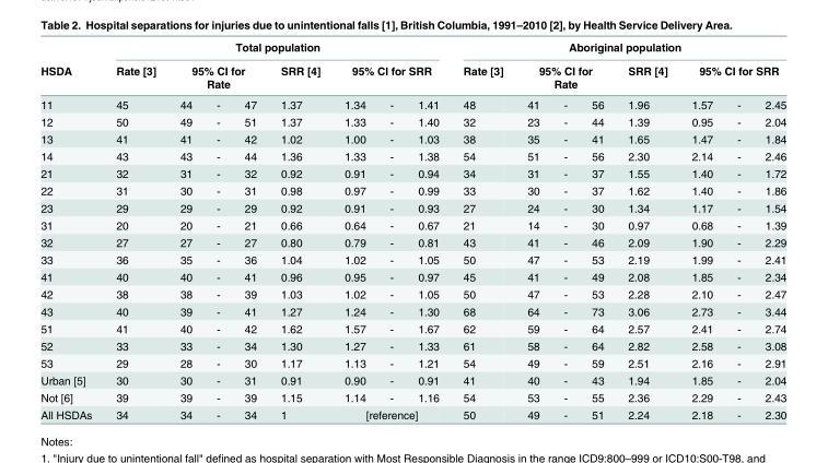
<table><thead><tr><td rowspan="3">HSDA 11</td><td colspan="8">Total population</td><td colspan="8">Aboriginal population</td></tr><tr><td rowspan="2">Rate [3] 45</td><td colspan="3">95% CI for Rate</td><td rowspan="2">SRR [4] 1.37</td><td colspan="3">95% CI for SRR</td><td rowspan="2">Rate [3] 48</td><td colspan="3">95% CI for Rate</td><td rowspan="2">SRR [4] 1.96</td><td colspan="3">95% CI for SRR</td></tr><tr><td>44</td><td>-</td><td>47</td><td>1.34</td><td>-</td><td>1.41</td><td>41</td><td>-</td><td>56</td><td>1.57</td><td>-</td><td>2.45</td></tr></thead><tbody><tr><td>12</td><td>50</td><td>49</td><td>-</td><td>51</td><td>1.37</td><td>1.33</td><td>-</td><td>1.40</td><td>32</td><td>23</td><td>-</td><td>44</td><td>1.39</td><td>0.95</td><td>-</td><td>2.04</td></tr><tr><td>13</td><td>41</td><td>41</td><td>-</td><td>42</td><td>1.02</td><td>1.00</td><td>-</td><td>1.03</td><td>38</td><td>35</td><td>-</td><td>41</td><td>1.65</td><td>1.47</td><td>-</td><td>1.84</td></tr><tr><td>14</td><td>43</td><td>43</td><td>-</td><td>44</td><td>1.36</td><td>1.33</td><td>-</td><td>1.38</td><td>54</td><td>51</td><td>-</td><td>56</td><td>2.30</td><td>2.14</td><td>-</td><td>2.46</td></tr><tr><td>21</td><td>32</td><td>31</td><td>-</td><td>32</td><td>0.92</td><td>0.91</td><td>-</td><td>0.94</td><td>34</td><td>31</td><td>-</td><td>37</td><td>1.55</td><td>1.40</td><td>-</td><td>1.72</td></tr><tr><td>22</td><td>31</td><td>30</td><td>-</td><td>31</td><td>0.98</td><td>0.97</td><td>-</td><td>0.99</td><td>33</td><td>30</td><td>-</td><td>37</td><td>1.62</td><td>1.40</td><td>-</td><td>1.86</td></tr><tr><td>23</td><td>29</td><td>29</td><td>-</td><td>29</td><td>0.92</td><td>0.91</td><td>-</td><td>0.93</td><td>27</td><td>24</td><td>-</td><td>30</td><td>1.34</td><td>1.17</td><td>-</td><td>1.54</td></tr><tr><td>31</td><td>20</td><td>20</td><td>-</td><td>21</td><td>0.66</td><td>0.64</td><td>-</td><td>0.67</td><td>21</td><td>14</td><td>-</td><td>30</td><td>0.97</td><td>0.68</td><td>-</td><td>1.39</td></tr><tr><td>32</td><td>27</td><td>27</td><td>-</td><td>27</td><td>0.80</td><td>0.79</td><td>-</td><td>0.81</td><td>43</td><td>41</td><td>-</td><td>46</td><td>2.09</td><td>1.90</td><td>-</td><td>2.29</td></tr><tr><td>33</td><td>36</td><td>35</td><td>-</td><td>36</td><td>1.04</td><td>1.02</td><td>-</td><td>1.05</td><td>50</td><td>47</td><td>-</td><td>53</td><td>2.19</td><td>1.99</td><td>-</td><td>2.41</td></tr><tr><td>41</td><td>40</td><td>40</td><td>-</td><td>41</td><td>0.96</td><td>0.95</td><td>-</td><td>0.97</td><td>45</td><td>41</td><td>-</td><td>49</td><td>2.08</td><td>1.85</td><td>-</td><td>2.34</td></tr><tr><td>42</td><td>38</td><td>38</td><td>-</td><td>39</td><td>1.03</td><td>1.02</td><td>-</td><td>1.05</td><td>50</td><td>47</td><td>-</td><td>53</td><td>2.28</td><td>2.10</td><td>-</td><td>2.47</td></tr><tr><td>43</td><td>40</td><td>39</td><td>-</td><td>41</td><td>1.27</td><td>1.24</td><td>-</td><td>1.30</td><td>68</td><td>64</td><td>-</td><td>73</td><td>3.06</td><td>2.73</td><td>-</td><td>3.44</td></tr><tr><td>51</td><td>41</td><td>40</td><td>-</td><td>42</td><td>1.62</td><td>1.57</td><td>-</td><td>1.67</td><td>62</td><td>59</td><td>-</td><td>64</td><td>2.57</td><td>2.41</td><td>-</td><td>2.74</td></tr><tr><td>52</td><td>33</td><td>33</td><td>-</td><td>34</td><td>1.30</td><td>1.27</td><td>-</td><td>1.33</td><td>61</td><td>58</td><td>-</td><td>64</td><td>2.82</td><td>2.58</td><td>-</td><td>3.08</td></tr><tr><td>53</td><td>29</td><td>28</td><td>-</td><td>30</td><td>1.17</td><td>1.13</td><td>-</td><td>1.21</td><td>54</td><td>49</td><td>-</td><td>59</td><td>2.51</td><td>2.16</td><td>-</td><td>2.91</td></tr><tr><td>Urban [5]</td><td>30</td><td>30</td><td>-</td><td>31</td><td>0.91</td><td>0.90</td><td>-</td><td>0.91</td><td>41</td><td>40</td><td>-</td><td>43</td><td>1.94</td><td>1.85</td><td>-</td><td>2.04</td></tr><tr><td>Not [6]</td><td>39</td><td>39</td><td>-</td><td>39</td><td>1.15</td><td>1.14</td><td>-</td><td>1.16</td><td>54</td><td>53</td><td>-</td><td>55</td><td>2.36</td><td>2.29</td><td>-</td><td>2.43</td></tr><tr><td>All HSDAs</td><td>34</td><td>34</td><td>-</td><td>34</td><td>1</td><td colspan="3">[reference]</td><td>50</td><td>49</td><td>-</td><td>51</td><td>2.24</td><td>2.18</td><td>-</td><td>2.30</td></tr></tbody></table>